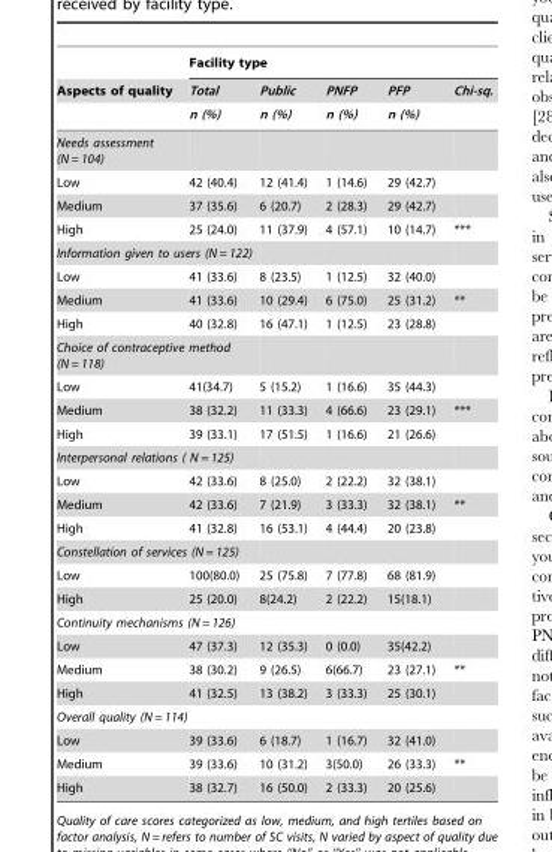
<table><thead><tr><td rowspan="3">Aspects of quality</td><td colspan="5">Facility type</td></tr><tr><td rowspan="2">Total n (%)</td><td rowspan="2">Public n (%)</td><td rowspan="2">PNFP n (%)</td><td rowspan="2">PFP n (%)</td><td rowspan="2">Chi-sq.</td></tr><tr></tr></thead><tbody><tr><td colspan="6">Needs assessment (N = 104)</td></tr><tr><td>Low</td><td>42 (40.4)</td><td>12 (41.4)</td><td>1 (14.6)</td><td>29 (42.7)</td><td></td></tr><tr><td>Medium</td><td>37 (35.6)</td><td>6 (20.7)</td><td>2 (28.3)</td><td>29 (42.7)</td><td></td></tr><tr><td>High</td><td>25 (24.0)</td><td>11 (37.9)</td><td>4 (57.1)</td><td>10 (14.7)</td><td>***</td></tr><tr><td colspan="6">Information given to users (N = 122)</td></tr><tr><td>Low</td><td>41 (33.6)</td><td>8 (23.5)</td><td>1 (12.5)</td><td>32 (40.0)</td><td></td></tr><tr><td>Medium</td><td>41 (33.6)</td><td>10 (29.4)</td><td>6 (75.0)</td><td>25 (31.2)</td><td>**</td></tr><tr><td>High</td><td>40 (32.8)</td><td>16 (47.1)</td><td>1 (12.5)</td><td>23 (28.8)</td><td></td></tr><tr><td colspan="6">Choice of contraceptive method (N = 118)</td></tr><tr><td>Low</td><td>41(34.7)</td><td>5 (15.2)</td><td>1 (16.6)</td><td>35 (44.3)</td><td></td></tr><tr><td>Medium</td><td>38 (32.2)</td><td>11 (33.3)</td><td>4 (66.6)</td><td>23 (29.1)</td><td>***</td></tr><tr><td>High</td><td>39 (33.1)</td><td>17 (51.5)</td><td>1 (16.6)</td><td>21 (26.6)</td><td></td></tr><tr><td colspan="6">Interpersonal relations ( N = 125)</td></tr><tr><td>Low</td><td>42 (33.6)</td><td>8 (25.0)</td><td>2 (22.2)</td><td>32 (38.1)</td><td></td></tr><tr><td>Medium</td><td>42 (33.6)</td><td>7 (21.9)</td><td>3 (33.3)</td><td>32 (38.1)</td><td>**</td></tr><tr><td>High</td><td>41 (32.8)</td><td>16 (53.1)</td><td>4 (44.4)</td><td>20 (23.8)</td><td></td></tr><tr><td colspan="6">Constellation of services (N = 125)</td></tr><tr><td>Low</td><td>100(80.0)</td><td>25 (75.8)</td><td>7 (77.8)</td><td>68 (81.9)</td><td></td></tr><tr><td>High</td><td>25 (20.0)</td><td>8(24.2)</td><td>2 (22.2)</td><td>15(18.1)</td><td></td></tr><tr><td colspan="6">Continuity mechanisms (N = 126)</td></tr><tr><td>Low</td><td>47 (37.3)</td><td>12 (35.3)</td><td>0 (0.0)</td><td>35(42.2)</td><td></td></tr><tr><td>Medium</td><td>38 (30.2)</td><td>9 (26.5)</td><td>6(66.7)</td><td>23 (27.1)</td><td>**</td></tr><tr><td>High</td><td>41 (32.5)</td><td>13 (38.2)</td><td>3 (33.3)</td><td>25 (30.1)</td><td></td></tr><tr><td colspan="6">Overall quality (N = 114)</td></tr><tr><td>Low</td><td>39 (33.6)</td><td>6 (18.7)</td><td>1 (16.7)</td><td>32 (41.0)</td><td></td></tr><tr><td>Medium</td><td>39 (33.6)</td><td>10 (31.2)</td><td>3(50.0)</td><td>26 (33.3)</td><td>**</td></tr><tr><td>High</td><td>38 (32.7)</td><td>16 (50.0)</td><td>2 (33.3)</td><td>20 (25.6)</td><td></td></tr></tbody></table>